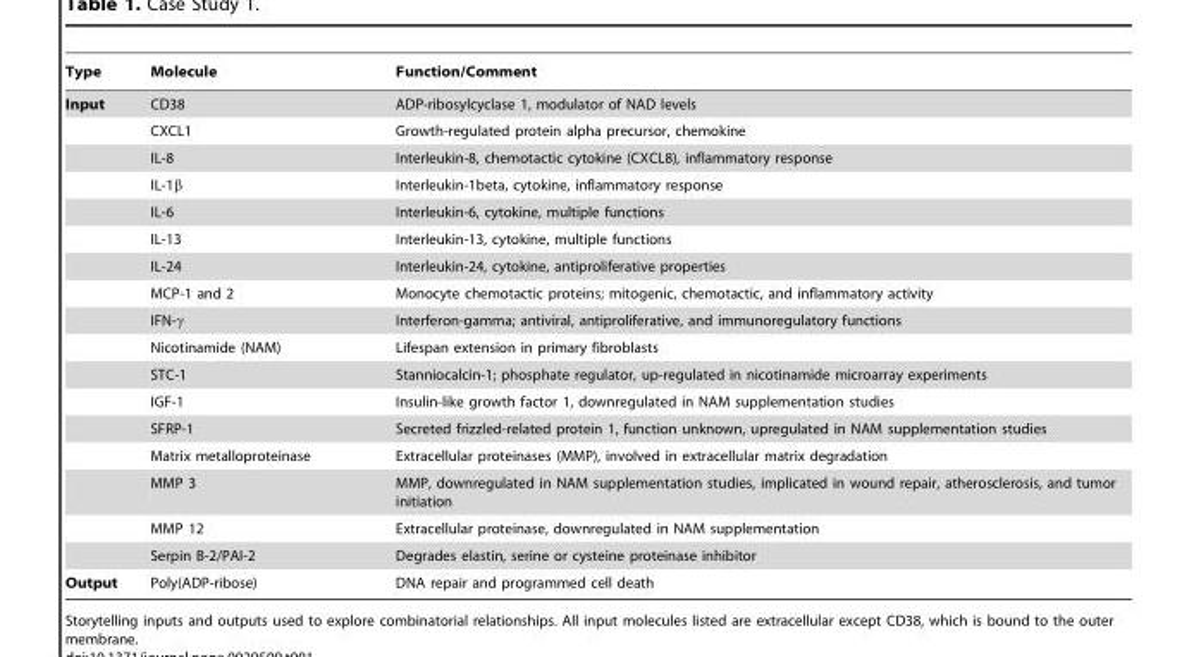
<table><thead><tr><td>Type</td><td>Molecule</td><td>Function/Comment</td></tr></thead><tbody><tr><td rowspan="17">Input</td><td>CD38</td><td>ADP-ribosylcyclase 1, modulator of NAD levels</td></tr><tr><td>CXCL1</td><td>Growth-regulated protein alpha precursor, chemokine</td></tr><tr><td>IL-8</td><td>Interleukin-8, chemotactic cytokine (CXCL8), inflammatory response</td></tr><tr><td>IL-1β</td><td>Interleukin-1beta, cytokine, inflammatory response</td></tr><tr><td>IL-6</td><td>Interleukin-6, cytokine, multiple functions</td></tr><tr><td>IL-13</td><td>Interleukin-13, cytokine, multiple functions</td></tr><tr><td>IL-24</td><td>Interleukin-24, cytokine, antiproliferative properties</td></tr><tr><td>MCP-1 and 2</td><td>Monocyte chemotactic proteins; mitogenic, chemotactic, and inflammatory activity</td></tr><tr><td>IFN-γ</td><td>Interferon-gamma; antiviral, antiproliferative, and immunoregulatory functions</td></tr><tr><td>Nicotinamide (NAM)</td><td>Lifespan extension in primary fibroblasts</td></tr><tr><td>STC-1</td><td>Stanniocalcin-1; phosphate regulator, up-regulated in nicotinamide microarray experiments</td></tr><tr><td>IGF-1</td><td>Insulin-like growth factor 1, downregulated in NAM supplementation studies</td></tr><tr><td>SFRP-1</td><td>Secreted frizzled-related protein 1, function unknown, upregulated in NAM supplementation studies</td></tr><tr><td>Matrix metalloproteinase</td><td>Extracellular proteinases (MMP), involved in extracellular matrix degradation</td></tr><tr><td>MMP 3</td><td>MMP, downregulated in NAM supplementation studies, implicated in wound repair, atherosclerosis, and tumor initiation</td></tr><tr><td>MMP 12</td><td>Extracellular proteinase, downregulated in NAM supplementation</td></tr><tr><td>Serpin B-2/PAI-2</td><td>Degrades elastin, serine or cysteine proteinase inhibitor</td></tr><tr><td>Output</td><td>Poly(ADP-ribose)</td><td>DNA repair and programmed cell death</td></tr></tbody></table>